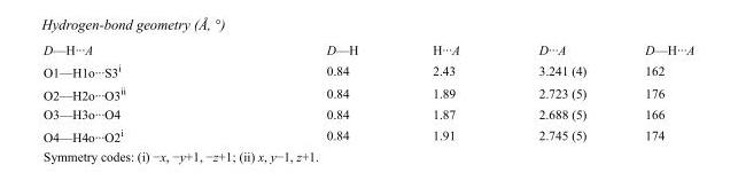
<table><tbody><tr><td>D—H···A</td><td>D—H</td><td>H···A</td><td>D···A</td><td>D—H···A</td></tr><tr><td>O1—H1o···S3<sup>i</sup></td><td>0.84</td><td>2.43</td><td>3.241 (4)</td><td>162</td></tr><tr><td>O2—H2o···O3<sup>ii</sup></td><td>0.84</td><td>1.89</td><td>2.723 (5)</td><td>176</td></tr><tr><td>O3—H3o···O4</td><td>0.84</td><td>1.87</td><td>2.688 (5)</td><td>166</td></tr><tr><td>O4—H4o···O2<sup>i</sup></td><td>0.84</td><td>1.91</td><td>2.745 (5)</td><td>174</td></tr></tbody></table>